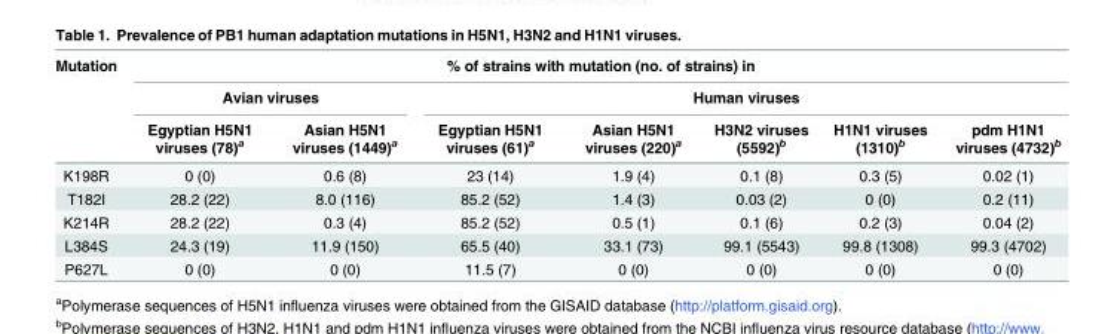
<table><thead><tr><td rowspan="3">Mutation</td><td colspan="7">% of strains with mutation (no. of strains) in</td></tr><tr><td colspan="2">Avian viruses</td><td colspan="5">Human viruses</td></tr><tr><td>Egyptian H5N1 viruses (78)<sup>a</sup></td><td>Asian H5N1 viruses (1449)<sup>a</sup></td><td>Egyptian H5N1 viruses (61)<sup>a</sup></td><td>Asian H5N1 viruses (220)<sup>a</sup></td><td>H3N2 viruses (5592)<sup>b</sup></td><td>H1N1 viruses (1310)<sup>b</sup></td><td>pdm H1N1 viruses (4732)<sup>b</sup></td></tr></thead><tbody><tr><td>K198R</td><td>0 (0)</td><td>0.6 (8)</td><td>23 (14)</td><td>1.9 (4)</td><td>0.1 (8)</td><td>0.3 (5)</td><td>0.02 (1)</td></tr><tr><td>T182I</td><td>28.2 (22)</td><td>8.0 (116)</td><td>85.2 (52)</td><td>1.4 (3)</td><td>0.03 (2)</td><td>0 (0)</td><td>0.2 (11)</td></tr><tr><td>K214R</td><td>28.2 (22)</td><td>0.3 (4)</td><td>85.2 (52)</td><td>0.5 (1)</td><td>0.1 (6)</td><td>0.2 (3)</td><td>0.04 (2)</td></tr><tr><td>L384S</td><td>24.3 (19)</td><td>11.9 (150)</td><td>65.5 (40)</td><td>33.1 (73)</td><td>99.1 (5543)</td><td>99.8 (1308)</td><td>99.3 (4702)</td></tr><tr><td>P627L</td><td>0 (0)</td><td>0 (0)</td><td>11.5 (7)</td><td>0 (0)</td><td>0 (0)</td><td>0 (0)</td><td>0 (0)</td></tr></tbody></table>